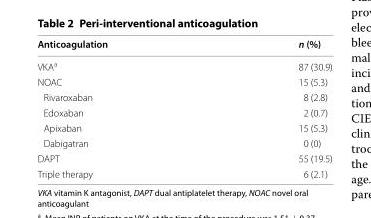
<table><thead><tr><td>Anticoagulation</td><td>n (%)</td></tr></thead><tbody><tr><td>VKA<sup>a</sup></td><td>87 (30.9)</td></tr><tr><td>NOAC</td><td>15 (5.3)</td></tr><tr><td>Rivaroxaban</td><td>8 (2.8)</td></tr><tr><td>Edoxaban</td><td>2 (0.7)</td></tr><tr><td>Apixaban</td><td>15 (5.3)</td></tr><tr><td>Dabigatran</td><td>0 (0)</td></tr><tr><td>DAPT</td><td>55 (19.5)</td></tr><tr><td>Triple therapy</td><td>6 (2.1)</td></tr></tbody></table>